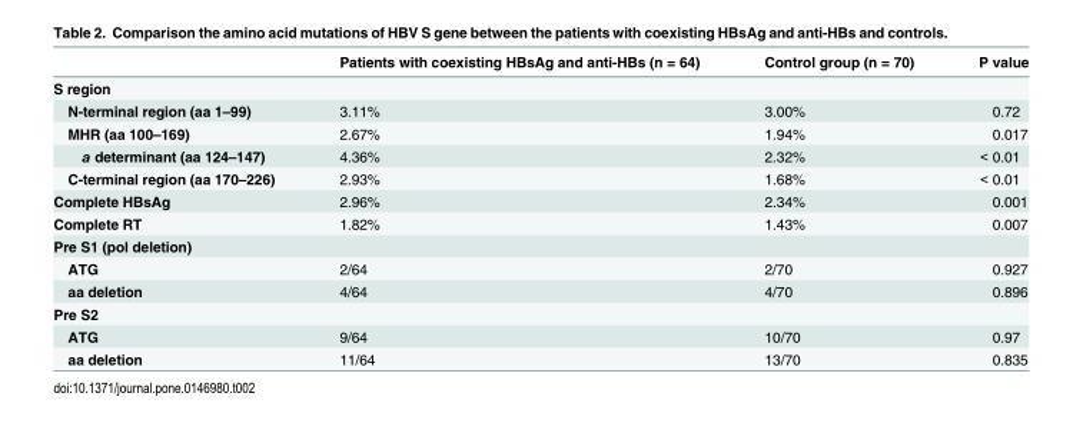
<table><thead><tr><td></td><td>Patients with coexisting HBsAg and anti-HBs (n = 64)</td><td>Control group (n = 70)</td><td>P value</td></tr></thead><tbody><tr><td colspan="4">S region</td></tr><tr><td>N-terminal region (aa 1–99)</td><td>3.11%</td><td>3.00%</td><td>0.72</td></tr><tr><td>MHR (aa 100–169)</td><td>2.67%</td><td>1.94%</td><td>0.017</td></tr><tr><td>a determinant (aa 124–147)</td><td>4.36%</td><td>2.32%</td><td>&lt; 0.01</td></tr><tr><td>C-terminal region (aa 170–226)</td><td>2.93%</td><td>1.68%</td><td>&lt; 0.01</td></tr><tr><td>Complete HBsAg</td><td>2.96%</td><td>2.34%</td><td>0.001</td></tr><tr><td>Complete RT</td><td>1.82%</td><td>1.43%</td><td>0.007</td></tr><tr><td colspan="4">Pre S1 (pol deletion)</td></tr><tr><td>ATG</td><td>2/64</td><td>2/70</td><td>0.927</td></tr><tr><td>aa deletion</td><td>4/64</td><td>4/70</td><td>0.896</td></tr><tr><td colspan="4">Pre S2</td></tr><tr><td>ATG</td><td>9/64</td><td>10/70</td><td>0.97</td></tr><tr><td>aa deletion</td><td>11/64</td><td>13/70</td><td>0.835</td></tr></tbody></table>